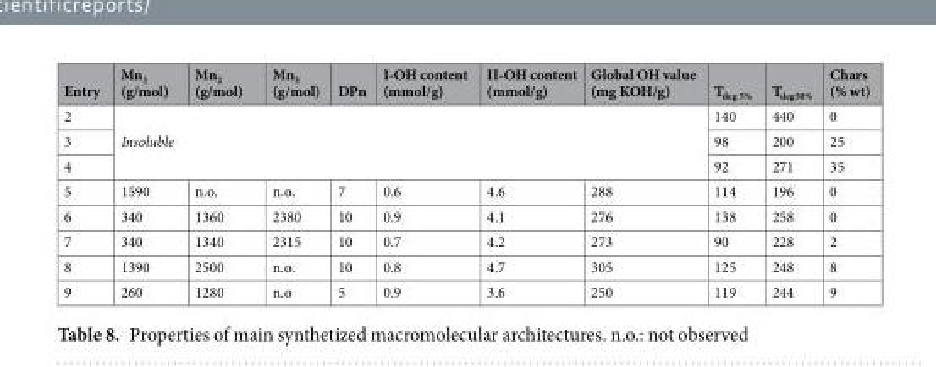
<table><thead><tr><td>Entry</td><td>Mn<sub>1</sub> (g/mol)</td><td>Mn<sub>2</sub> (g/mol)</td><td>Mn<sub>3</sub> (g/mol)</td><td>DPn</td><td>I-OH content (mmol/g)</td><td>II-OH content (mmol/g)</td><td>Global OH value (mg KOH/g)</td><td>T<sub>deg 5%</sub></td><td>T<sub>deg50%</sub></td><td>Chars (% wt)</td></tr></thead><tbody><tr><td>2</td><td rowspan="3" colspan="7">Insoluble</td><td>140</td><td>440</td><td>0</td></tr><tr><td>3</td><td>98</td><td>200</td><td>25</td></tr><tr><td>4</td><td>92</td><td>271</td><td>35</td></tr><tr><td>5</td><td>1590</td><td>n.o.</td><td>n.o.</td><td>7</td><td>0.6</td><td>4.6</td><td>288</td><td>114</td><td>196</td><td>0</td></tr><tr><td>6</td><td>340</td><td>1360</td><td>2380</td><td>10</td><td>0.9</td><td>4.1</td><td>276</td><td>138</td><td>258</td><td>0</td></tr><tr><td>7</td><td>340</td><td>1340</td><td>2315</td><td>10</td><td>0.7</td><td>4.2</td><td>273</td><td>90</td><td>228</td><td>2</td></tr><tr><td>8</td><td>1390</td><td>2500</td><td>n.o.</td><td>10</td><td>0.8</td><td>4.7</td><td>305</td><td>125</td><td>248</td><td>8</td></tr><tr><td>9</td><td>260</td><td>1280</td><td>n.o</td><td>5</td><td>0.9</td><td>3.6</td><td>250</td><td>119</td><td>244</td><td>9</td></tr></tbody></table>